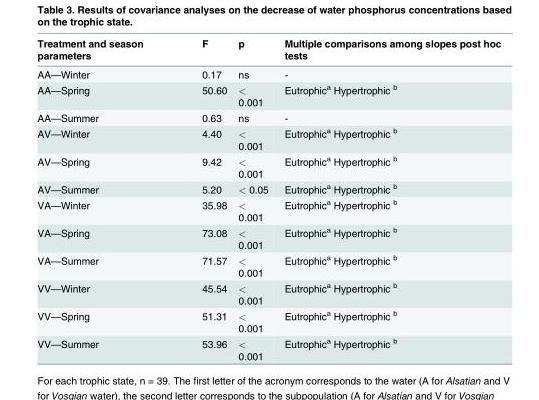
<table><thead><tr><td>Treatment and season parameters</td><td>F</td><td>p</td><td>Multiple comparisons among slopes post hoc tests</td></tr></thead><tbody><tr><td>AA—Winter</td><td>0.17</td><td>ns</td><td>-</td></tr><tr><td>AA—Spring</td><td>50.60</td><td>&lt; 0.001</td><td>Eutrophic<sup>a</sup> Hypertrophic <sup>b</sup></td></tr><tr><td>AA—Summer</td><td>0.63</td><td>ns</td><td>-</td></tr><tr><td>AV—Winter</td><td>4.40</td><td>&lt; 0.001</td><td>Eutrophic<sup>a</sup> Hypertrophic <sup>b</sup></td></tr><tr><td>AV—Spring</td><td>9.42</td><td>&lt; 0.001</td><td>Eutrophic<sup>a</sup> Hypertrophic <sup>b</sup></td></tr><tr><td>AV—Summer</td><td>5.20</td><td>&lt; 0.05</td><td>Eutrophic<sup>a</sup> Hypertrophic <sup>b</sup></td></tr><tr><td>VA—Winter</td><td>35.98</td><td>&lt; 0.001</td><td>Eutrophic<sup>a</sup> Hypertrophic <sup>b</sup></td></tr><tr><td>VA—Spring</td><td>73.08</td><td>&lt; 0.001</td><td>Eutrophic<sup>a</sup> Hypertrophic <sup>b</sup></td></tr><tr><td>VA—Summer</td><td>71.57</td><td>&lt; 0.001</td><td>Eutrophic<sup>a</sup> Hypertrophic <sup>b</sup></td></tr><tr><td>VV—Winter</td><td>45.54</td><td>&lt; 0.001</td><td>Eutrophic<sup>a</sup> Hypertrophic <sup>b</sup></td></tr><tr><td>VV—Spring</td><td>51.31</td><td>&lt; 0.001</td><td>Eutrophic<sup>a</sup> Hypertrophic <sup>b</sup></td></tr><tr><td>VV—Summer</td><td>53.96</td><td>&lt; 0.001</td><td>Eutrophic<sup>a</sup> Hypertrophic <sup>b</sup></td></tr></tbody></table>